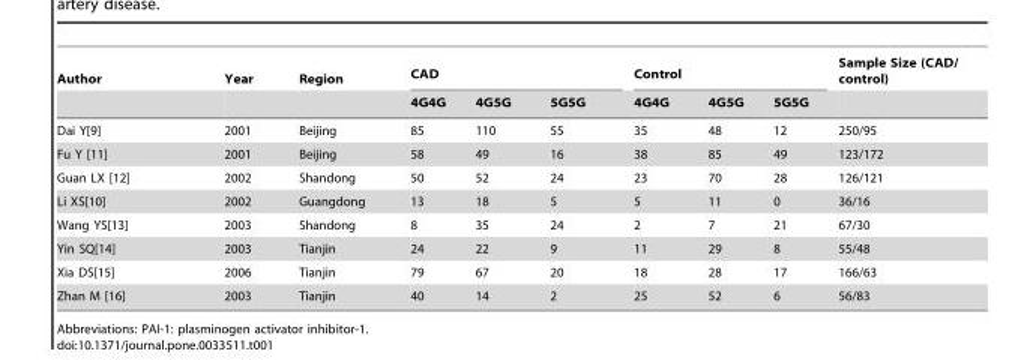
<table><thead><tr><td rowspan="2">Author</td><td rowspan="2">Year</td><td rowspan="2">Region</td><td colspan="3">CAD</td><td colspan="3">Control</td><td rowspan="2">Sample Size (CAD/ control)</td></tr><tr><td>4G4G</td><td>4G5G</td><td>5G5G</td><td>4G4G</td><td>4G5G</td><td>5G5G</td></tr></thead><tbody><tr><td>Dai Y[9]</td><td>2001</td><td>Beijing</td><td>85</td><td>110</td><td>55</td><td>35</td><td>48</td><td>12</td><td>250/95</td></tr><tr><td>Fu Y [11]</td><td>2001</td><td>Beijing</td><td>58</td><td>49</td><td>16</td><td>38</td><td>85</td><td>49</td><td>123/172</td></tr><tr><td>Guan LX [12]</td><td>2002</td><td>Shandong</td><td>50</td><td>52</td><td>24</td><td>23</td><td>70</td><td>28</td><td>126/121</td></tr><tr><td>Li XS[10]</td><td>2002</td><td>Guangdong</td><td>13</td><td>18</td><td>5</td><td>5</td><td>11</td><td>0</td><td>36/16</td></tr><tr><td>Wang YS[13]</td><td>2003</td><td>Shandong</td><td>8</td><td>35</td><td>24</td><td>2</td><td>7</td><td>21</td><td>67/30</td></tr><tr><td>Yin SQ[14]</td><td>2003</td><td>Tianjin</td><td>24</td><td>22</td><td>9</td><td>11</td><td>29</td><td>8</td><td>55/48</td></tr><tr><td>Xia DS[15]</td><td>2006</td><td>Tianjin</td><td>79</td><td>67</td><td>20</td><td>18</td><td>28</td><td>17</td><td>166/63</td></tr><tr><td>Zhan M [16]</td><td>2003</td><td>Tianjin</td><td>40</td><td>14</td><td>2</td><td>25</td><td>52</td><td>6</td><td>56/83</td></tr></tbody></table>